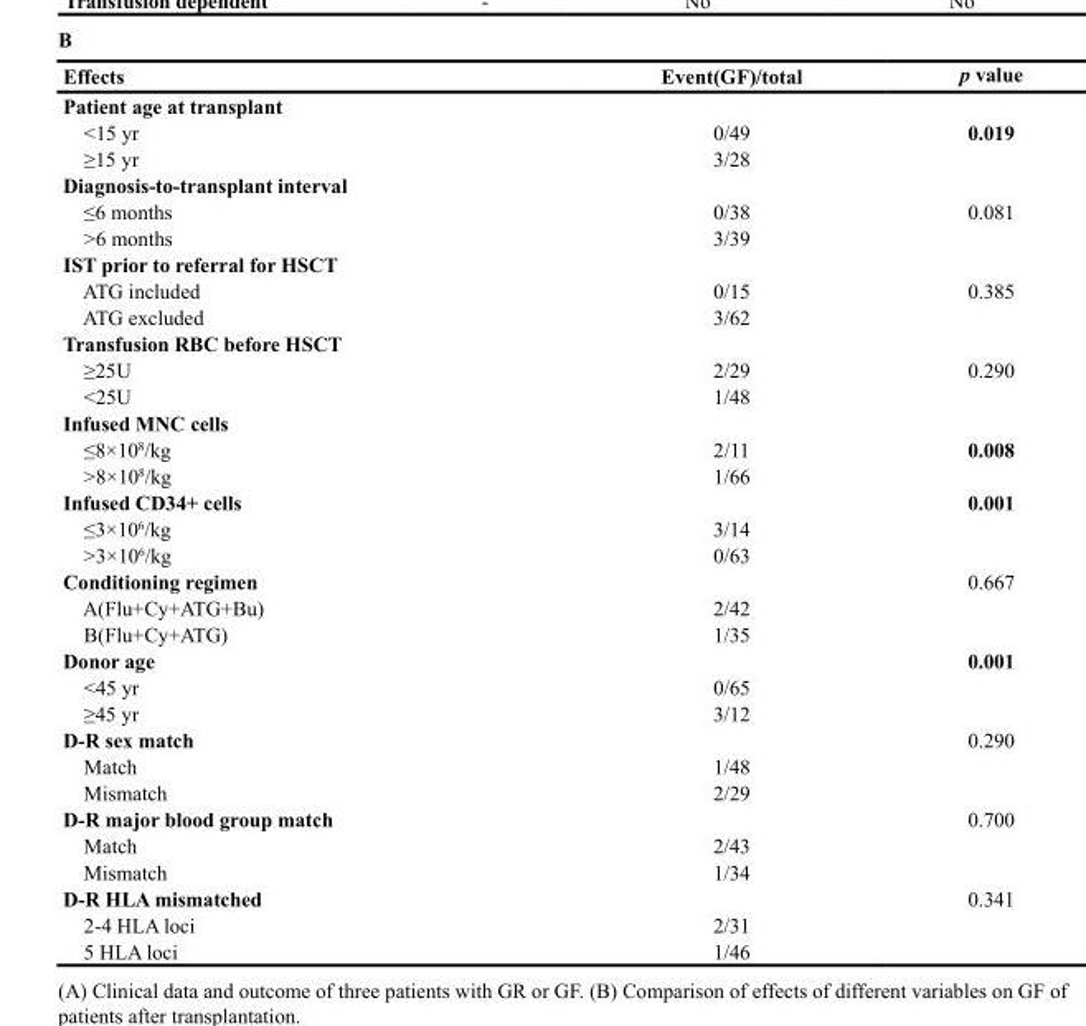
<table><thead><tr><td>Effects</td><td>Event(GF)/total</td><td>p value</td></tr></thead><tbody><tr><td colspan="3">Patient age at transplant</td></tr><tr><td>&lt;15 yr</td><td>0/49</td><td>0.019</td></tr><tr><td>≥15 yr</td><td>3/28</td><td></td></tr><tr><td colspan="3">Diagnosis-to-transplant interval</td></tr><tr><td>≤6 months</td><td>0/38</td><td>0.081</td></tr><tr><td>&gt;6 months</td><td>3/39</td><td></td></tr><tr><td colspan="3">IST prior to referral for HSCT</td></tr><tr><td>ATG included</td><td>0/15</td><td>0.385</td></tr><tr><td>ATG excluded</td><td>3/62</td><td></td></tr><tr><td colspan="3">Transfusion RBC before HSCT</td></tr><tr><td>≥25U</td><td>2/29</td><td>0.290</td></tr><tr><td>&lt;25U</td><td>1/48</td><td></td></tr><tr><td colspan="3">Infused MNC cells</td></tr><tr><td>≤8×10<sup>8</sup>/kg</td><td>2/11</td><td>0.008</td></tr><tr><td>&gt;8×10<sup>8</sup>/kg</td><td>1/66</td><td></td></tr><tr><td>Infused CD34+ cells</td><td></td><td>0.001</td></tr><tr><td>≤3×10<sup>6</sup>/kg</td><td>3/14</td><td></td></tr><tr><td>&gt;3×10<sup>6</sup>/kg</td><td>0/63</td><td></td></tr><tr><td>Conditioning regimen</td><td></td><td>0.667</td></tr><tr><td>A(Flu+Cy+ATG+Bu)</td><td>2/42</td><td></td></tr><tr><td>B(Flu+Cy+ATG)</td><td>1/35</td><td></td></tr><tr><td>Donor age</td><td></td><td>0.001</td></tr><tr><td>&lt;45 yr</td><td>0/65</td><td></td></tr><tr><td>≥45 yr</td><td>3/12</td><td></td></tr><tr><td>D-R sex match</td><td></td><td>0.290</td></tr><tr><td>Match</td><td>1/48</td><td></td></tr><tr><td>Mismatch</td><td>2/29</td><td></td></tr><tr><td>D-R major blood group match</td><td></td><td>0.700</td></tr><tr><td>Match</td><td>2/43</td><td></td></tr><tr><td>Mismatch</td><td>1/34</td><td></td></tr><tr><td>D-R HLA mismatched</td><td></td><td>0.341</td></tr><tr><td>2-4 HLA loci</td><td>2/31</td><td></td></tr><tr><td>5 HLA loci</td><td>1/46</td><td></td></tr></tbody></table>